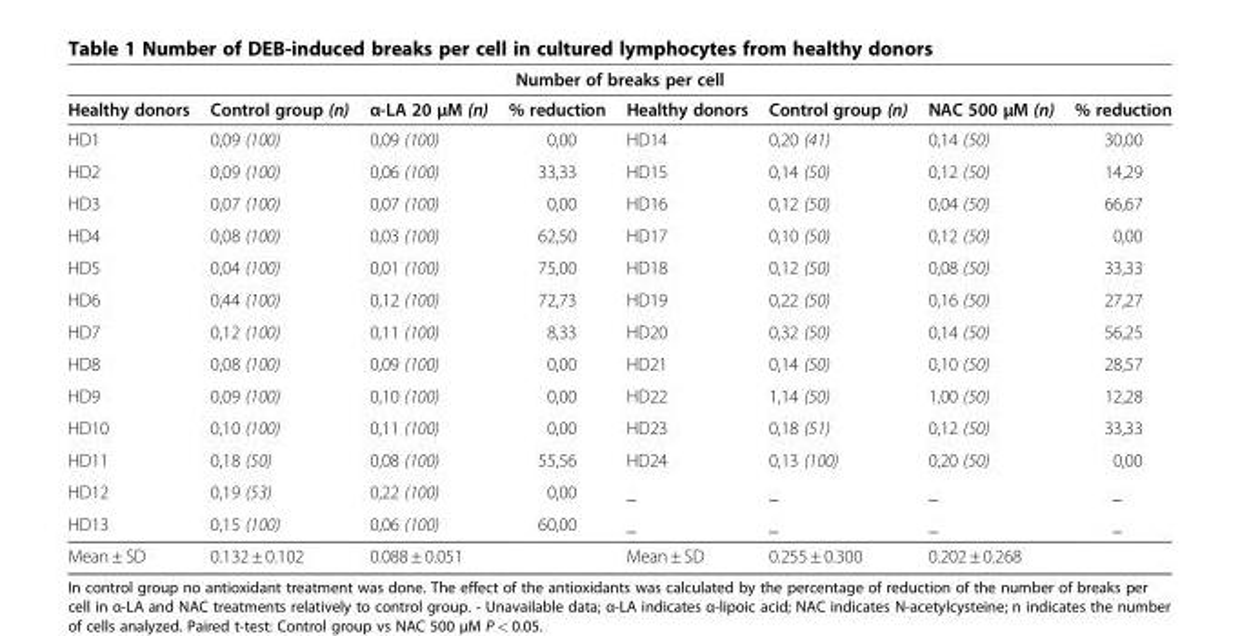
<table><thead><tr><td colspan="8">Number of breaks per cell</td></tr><tr><td>Healthy donors</td><td>Control group (n)</td><td>α-LA 20 μM (n)</td><td>% reduction</td><td>Healthy donors</td><td>Control group (n)</td><td>NAC 500 μM (n)</td><td>% reduction</td></tr></thead><tbody><tr><td>HD1</td><td>0,09 (100)</td><td>0,09 (100)</td><td>0,00</td><td>HD14</td><td>0,20 (41)</td><td>0,14 (50)</td><td>30,00</td></tr><tr><td>HD2</td><td>0,09 (100)</td><td>0,06 (100)</td><td>33,33</td><td>HD15</td><td>0,14 (50)</td><td>0,12 (50)</td><td>14,29</td></tr><tr><td>HD3</td><td>0,07 (100)</td><td>0,07 (100)</td><td>0,00</td><td>HD16</td><td>0,12 (50)</td><td>0,04 (50)</td><td>66,67</td></tr><tr><td>HD4</td><td>0,08 (100)</td><td>0,03 (100)</td><td>62,50</td><td>HD17</td><td>0,10 (50)</td><td>0,12 (50)</td><td>0,00</td></tr><tr><td>HD5</td><td>0,04 (100)</td><td>0,01 (100)</td><td>75,00</td><td>HD18</td><td>0,12 (50)</td><td>0,08 (50)</td><td>33,33</td></tr><tr><td>HD6</td><td>0,44 (100)</td><td>0,12 (100)</td><td>72,73</td><td>HD19</td><td>0,22 (50)</td><td>0,16 (50)</td><td>27,27</td></tr><tr><td>HD7</td><td>0,12 (100)</td><td>0,11 (100)</td><td>8,33</td><td>HD20</td><td>0,32 (50)</td><td>0,14 (50)</td><td>56,25</td></tr><tr><td>HD8</td><td>0,08 (100)</td><td>0,09 (100)</td><td>0,00</td><td>HD21</td><td>0,14 (50)</td><td>0,10 (50)</td><td>28,57</td></tr><tr><td>HD9</td><td>0,09 (100)</td><td>0,10 (100)</td><td>0,00</td><td>HD22</td><td>1,14 (50)</td><td>1,00 (50)</td><td>12,28</td></tr><tr><td>HD10</td><td>0,10 (100)</td><td>0,11 (100)</td><td>0,00</td><td>HD23</td><td>0,18 (51)</td><td>0,12 (50)</td><td>33,33</td></tr><tr><td>HD11</td><td>0,18 (50)</td><td>0,08 (100)</td><td>55,56</td><td>HD24</td><td>0,13 (100)</td><td>0,20 (50)</td><td>0,00</td></tr><tr><td>HD12</td><td>0,19 (53)</td><td>0,22 (100)</td><td>0,00</td><td>_</td><td>_</td><td>_</td><td>_</td></tr><tr><td>HD13</td><td>0,15 (100)</td><td>0,06 (100)</td><td>60,00</td><td>_</td><td>_</td><td>_</td><td>_</td></tr><tr><td>Mean ± SD</td><td>0.132 ± 0.102</td><td>0.088 ± 0.051</td><td></td><td>Mean ± SD</td><td>0.255 ± 0.300</td><td>0.202 ± 0.268</td><td></td></tr></tbody></table>